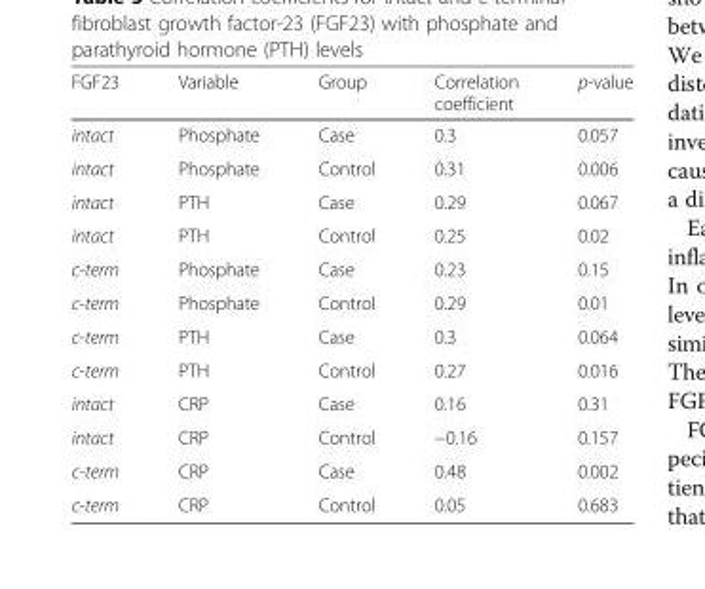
<table><thead><tr><td>FGF23</td><td>Variable</td><td>Group</td><td>Correlation coefficient</td><td>p-value</td></tr></thead><tbody><tr><td>intact</td><td>Phosphate</td><td>Case</td><td>0.3</td><td>0.057</td></tr><tr><td>intact</td><td>Phosphate</td><td>Control</td><td>0.31</td><td>0.006</td></tr><tr><td>intact</td><td>PTH</td><td>Case</td><td>0.29</td><td>0.067</td></tr><tr><td>intact</td><td>PTH</td><td>Control</td><td>0.25</td><td>0.02</td></tr><tr><td>c-term</td><td>Phosphate</td><td>Case</td><td>0.23</td><td>0.15</td></tr><tr><td>c-term</td><td>Phosphate</td><td>Control</td><td>0.29</td><td>0.01</td></tr><tr><td>c-term</td><td>PTH</td><td>Case</td><td>0.3</td><td>0.064</td></tr><tr><td>c-term</td><td>PTH</td><td>Control</td><td>0.27</td><td>0.016</td></tr><tr><td>intact</td><td>CRP</td><td>Case</td><td>0.16</td><td>0.31</td></tr><tr><td>intact</td><td>CRP</td><td>Control</td><td>−0.16</td><td>0.157</td></tr><tr><td>c-term</td><td>CRP</td><td>Case</td><td>0.48</td><td>0.002</td></tr><tr><td>c-term</td><td>CRP</td><td>Control</td><td>0.05</td><td>0.683</td></tr></tbody></table>